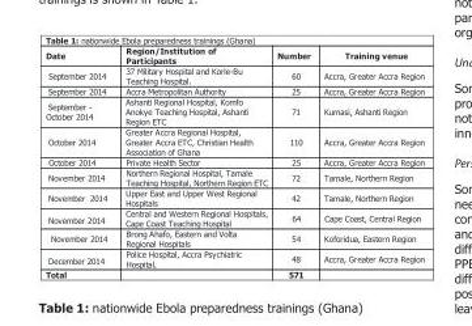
<table><thead><tr><td>Date</td><td>Region/Institution of Participants</td><td>Number</td><td>Training venue</td></tr></thead><tbody><tr><td>September 2014</td><td>37 Military Hospital and KorleBu Teaching Hospital.</td><td>60</td><td>Accra, Greater Accra Region</td></tr><tr><td>September 2014</td><td>Accra Metropolitan Authority</td><td>25</td><td>Accra, Greater Accra Region</td></tr><tr><td>September October 2014</td><td>Ashanti Regional Hospital, Komfo Anokye Teaching Hospital, Ashanti Region ETC</td><td>71</td><td>Kumasi, Ashanti Region</td></tr><tr><td>October 2014</td><td>Greater Accra Regional Hospital, Greater Accra ETC, Christian Health Association of Ghana</td><td>110</td><td>Accra, Greater Accra Region</td></tr><tr><td>October 2014</td><td>Private Health Sector</td><td>25</td><td>Accra, Greater Accra Region</td></tr><tr><td>November 2014</td><td>Northern Regional Hospital, Tamale Teaching Hospital, Northern Region ETC</td><td>72</td><td>Tamale, Northern Region</td></tr><tr><td>November 2014</td><td>Upper East and Upper West Regional Hospitals</td><td>42</td><td>Tamale, Northern Region</td></tr><tr><td>November 2014</td><td>Central and Western Regional Hospitals, Cape Coast Teaching Hospital</td><td>64</td><td>Cape Coast, Central Region</td></tr><tr><td>November 2014</td><td>Brong Ahafo, Eastern and Volta Regional Hospitals</td><td>54</td><td>Koforidua, Eastern Region</td></tr><tr><td>December 2014</td><td>Police Hospital, Accra Psychiatric Hospital,</td><td>48</td><td>Accra, Greater Accra Region</td></tr><tr><td>Total</td><td></td><td>571</td><td></td></tr></tbody></table>